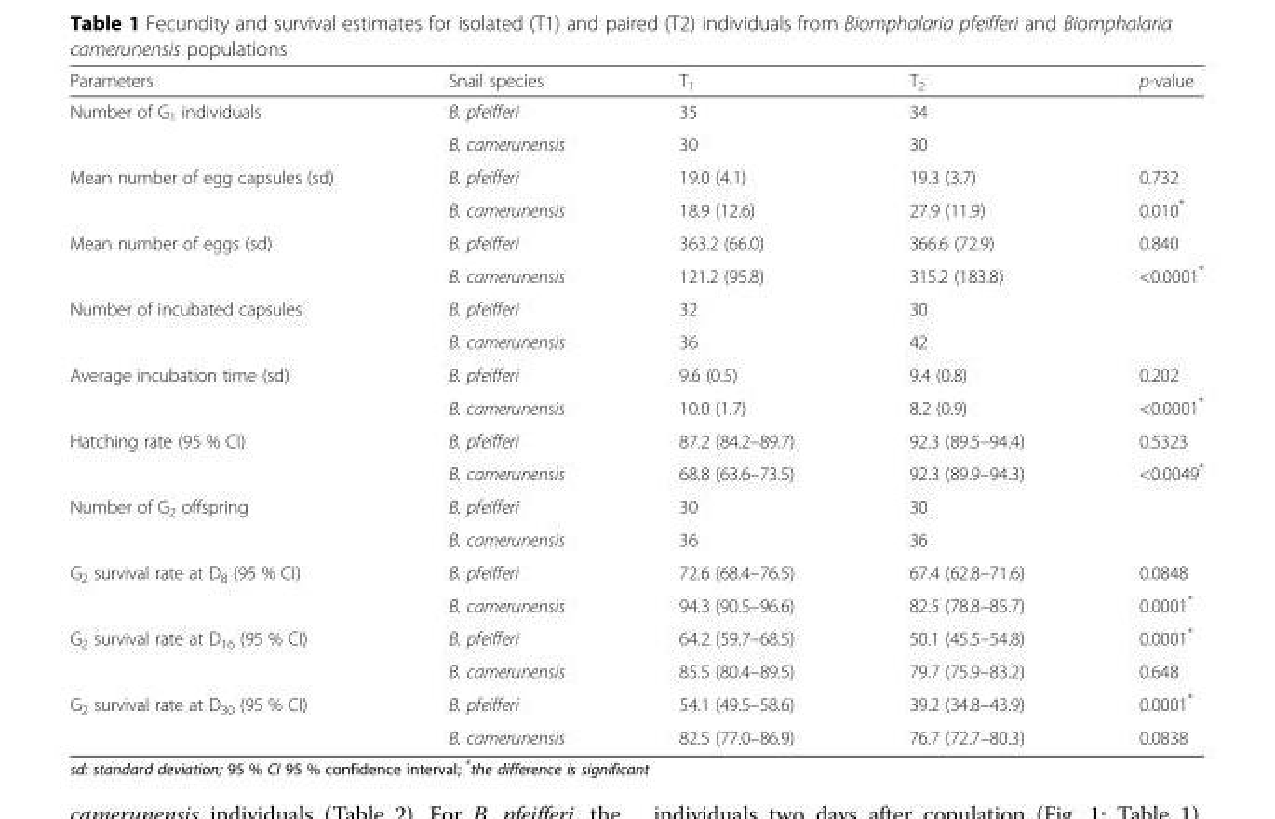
<table><thead><tr><td>Parameters</td><td>Snail species</td><td>T<sub>1</sub></td><td>T<sub>2</sub></td><td>p-value</td></tr></thead><tbody><tr><td rowspan="2">Number of G<sub>1</sub> individuals</td><td>B. pfeifferi</td><td>35</td><td>34</td><td></td></tr><tr><td>B. camerunensis</td><td>30</td><td>30</td><td></td></tr><tr><td rowspan="2">Mean number of egg capsules (sd)</td><td>B. pfeifferi</td><td>19.0 (4.1)</td><td>19.3 (3.7)</td><td>0.732</td></tr><tr><td>B. camerunensis</td><td>18.9 (12.6)</td><td>27.9 (11.9)</td><td>0.010*</td></tr><tr><td rowspan="2">Mean number of eggs (sd)</td><td>B. pfeifferi</td><td>363.2 (66.0)</td><td>366.6 (72.9)</td><td>0.840</td></tr><tr><td>B. camerunensis</td><td>121.2 (95.8)</td><td>315.2 (183.8)</td><td>&lt;0.0001*</td></tr><tr><td rowspan="2">Number of incubated capsules</td><td>B. pfeifferi</td><td>32</td><td>30</td><td></td></tr><tr><td>B. camerunensis</td><td>36</td><td>42</td><td></td></tr><tr><td rowspan="2">Average incubation time (sd)</td><td>B. pfeifferi</td><td>9.6 (0.5)</td><td>9.4 (0.8)</td><td>0.202</td></tr><tr><td>B. camerunensis</td><td>10.0 (1.7)</td><td>8.2 (0.9)</td><td>&lt;0.0001*</td></tr><tr><td rowspan="2">Hatching rate (95 % CI)</td><td>B. pfeifferi</td><td>87.2 (84.2–89.7)</td><td>92.3 (89.5–94.4)</td><td>0.5323</td></tr><tr><td>B. camerunensis</td><td>68.8 (63.6–73.5)</td><td>92.3 (89.9–94.3)</td><td>&lt;0.0049*</td></tr><tr><td rowspan="2">Number of G<sub>2</sub> offspring</td><td>B. pfeifferi</td><td>30</td><td>30</td><td></td></tr><tr><td>B. camerunensis</td><td>36</td><td>36</td><td></td></tr><tr><td rowspan="2">G<sub>2</sub> survival rate at D<sub>8</sub> (95 % CI)</td><td>B. pfeifferi</td><td>72.6 (68.4–76.5)</td><td>67.4 (62.8–71.6)</td><td>0.0848</td></tr><tr><td>B. camerunensis</td><td>94.3 (90.5–96.6)</td><td>82.5 (78.8–85.7)</td><td>0.0001*</td></tr><tr><td rowspan="2">G<sub>2</sub> survival rate at D<sub>16</sub> (95 % CI)</td><td>B. pfeifferi</td><td>64.2 (59.7–68.5)</td><td>50.1 (45.5–54.8)</td><td>0.0001*</td></tr><tr><td>B. camerunensis</td><td>85.5 (80.4–89.5)</td><td>79.7 (75.9–83.2)</td><td>0.648</td></tr><tr><td rowspan="2">G<sub>2</sub> survival rate at D<sub>30</sub> (95 % CI)</td><td>B. pfeifferi</td><td>54.1 (49.5–58.6)</td><td>39.2 (34.8–43.9)</td><td>0.0001*</td></tr><tr><td>B. camerunensis</td><td>82.5 (77.0–86.9)</td><td>76.7 (72.7–80.3)</td><td>0.0838</td></tr></tbody></table>